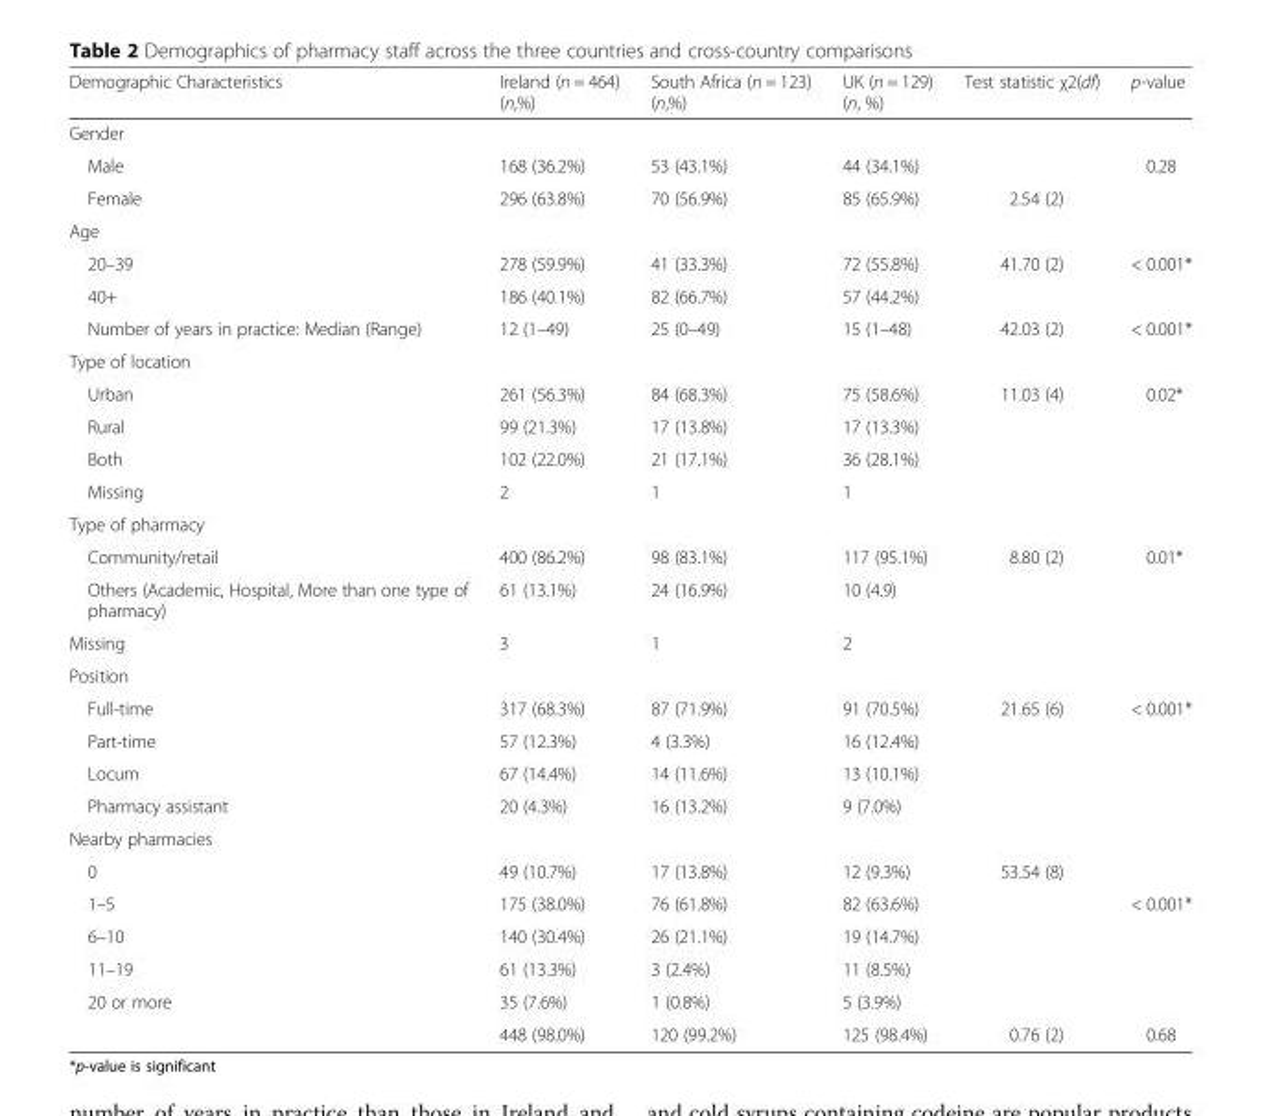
<table><thead><tr><td>Demographic Characteristics</td><td>Ireland (n = 464) (n,%)</td><td>South Africa (n = 123) (n,%)</td><td>UK (n = 129) (n, %)</td><td>Test statistic χ2(df)</td><td>p-value</td></tr></thead><tbody><tr><td colspan="6">Gender</td></tr><tr><td>Male</td><td>168 (36.2%)</td><td>53 (43.1%)</td><td>44 (34.1%)</td><td></td><td>0.28</td></tr><tr><td>Female</td><td>296 (63.8%)</td><td>70 (56.9%)</td><td>85 (65.9%)</td><td>2.54 (2)</td><td></td></tr><tr><td colspan="6">Age</td></tr><tr><td>20–39</td><td>278 (59.9%)</td><td>41 (33.3%)</td><td>72 (55.8%)</td><td>41.70 (2)</td><td>&lt; 0.001*</td></tr><tr><td>40+</td><td>186 (40.1%)</td><td>82 (66.7%)</td><td>57 (44.2%)</td><td></td><td></td></tr><tr><td>Number of years in practice: Median (Range)</td><td>12 (1–49)</td><td>25 (0–49)</td><td>15 (1–48)</td><td>42.03 (2)</td><td>&lt; 0.001*</td></tr><tr><td colspan="6">Type of location</td></tr><tr><td>Urban</td><td>261 (56.3%)</td><td>84 (68.3%)</td><td>75 (58.6%)</td><td>11.03 (4)</td><td>0.02*</td></tr><tr><td>Rural</td><td>99 (21.3%)</td><td>17 (13.8%)</td><td>17 (13.3%)</td><td></td><td></td></tr><tr><td>Both</td><td>102 (22.0%)</td><td>21 (17.1%)</td><td>36 (28.1%)</td><td></td><td></td></tr><tr><td>Missing</td><td>2</td><td>1</td><td>1</td><td></td><td></td></tr><tr><td colspan="6">Type of pharmacy</td></tr><tr><td>Community/retail</td><td>400 (86.2%)</td><td>98 (83.1%)</td><td>117 (95.1%)</td><td>8.80 (2)</td><td>0.01*</td></tr><tr><td>Others (Academic, Hospital, More than one type of pharmacy)</td><td>61 (13.1%)</td><td>24 (16.9%)</td><td>10 (4.9)</td><td></td><td></td></tr><tr><td>Missing</td><td>3</td><td>1</td><td>2</td><td></td><td></td></tr><tr><td colspan="6">Position</td></tr><tr><td>Full-time</td><td>317 (68.3%)</td><td>87 (71.9%)</td><td>91 (70.5%)</td><td>21.65 (6)</td><td>&lt; 0.001*</td></tr><tr><td>Part-time</td><td>57 (12.3%)</td><td>4 (3.3%)</td><td>16 (12.4%)</td><td></td><td></td></tr><tr><td>Locum</td><td>67 (14.4%)</td><td>14 (11.6%)</td><td>13 (10.1%)</td><td></td><td></td></tr><tr><td>Pharmacy assistant</td><td>20 (4.3%)</td><td>16 (13.2%)</td><td>9 (7.0%)</td><td></td><td></td></tr><tr><td colspan="6">Nearby pharmacies</td></tr><tr><td>0</td><td>49 (10.7%)</td><td>17 (13.8%)</td><td>12 (9.3%)</td><td>53.54 (8)</td><td></td></tr><tr><td>1–5</td><td>175 (38.0%)</td><td>76 (61.8%)</td><td>82 (63.6%)</td><td></td><td>&lt; 0.001*</td></tr><tr><td>6–10</td><td>140 (30.4%)</td><td>26 (21.1%)</td><td>19 (14.7%)</td><td></td><td></td></tr><tr><td>11–19</td><td>61 (13.3%)</td><td>3 (2.4%)</td><td>11 (8.5%)</td><td></td><td></td></tr><tr><td rowspan="2">20 or more</td><td>35 (7.6%)</td><td>1 (0.8%)</td><td>5 (3.9%)</td><td></td><td></td></tr><tr><td>448 (98.0%)</td><td>120 (99.2%)</td><td>125 (98.4%)</td><td>0.76 (2)</td><td>0.68</td></tr></tbody></table>